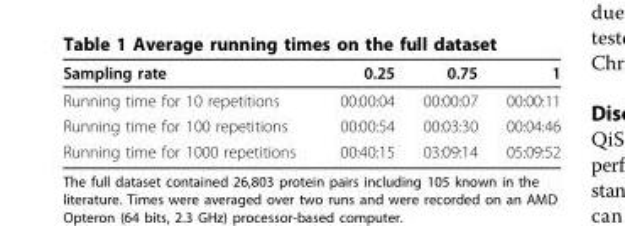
<table><thead><tr><td>Sampling rate</td><td>0.25</td><td>0.75</td><td>1</td></tr></thead><tbody><tr><td>Running time for 10 repetitions</td><td>00:00:04</td><td>00:00:07</td><td>00:00:11</td></tr><tr><td>Running time for 100 repetitions</td><td>00:00:54</td><td>00:03:30</td><td>00:04:46</td></tr><tr><td>Running time for 1000 repetitions</td><td>00:40:15</td><td>03:09:14</td><td>05:09:52</td></tr></tbody></table>